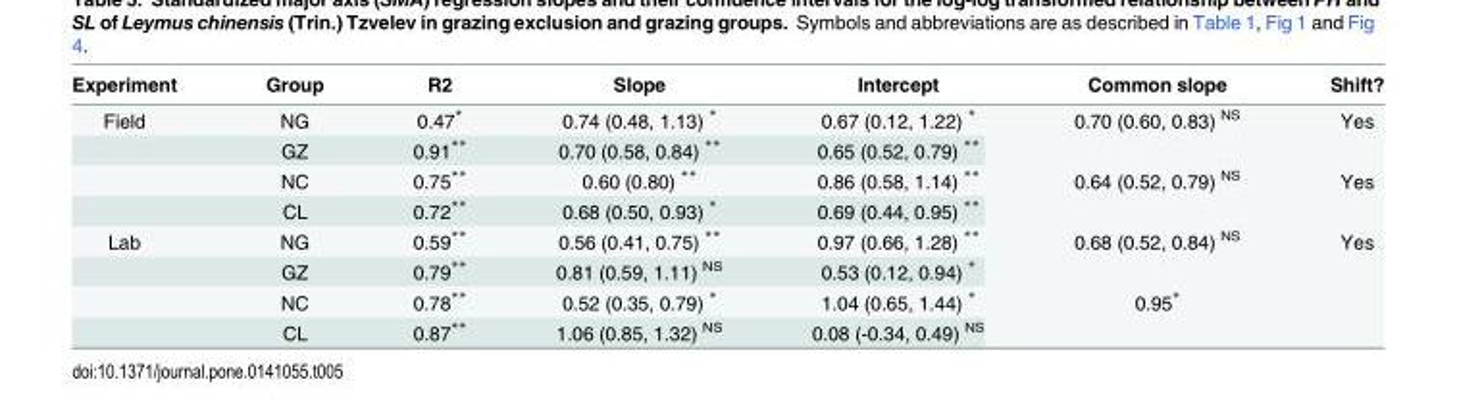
<table><thead><tr><td>Experiment</td><td>Group</td><td>R2</td><td>Slope</td><td>Intercept</td><td>Common slope</td><td>Shift?</td></tr></thead><tbody><tr><td rowspan="4">Field</td><td>NG</td><td>0.47*</td><td>0.74 (0.48, 1.13) *</td><td>0.67 (0.12, 1.22) *</td><td rowspan="2">0.70 (0.60, 0.83) <sup>NS</sup></td><td rowspan="2">Yes</td></tr><tr><td>GZ</td><td>0.91**</td><td>0.70 (0.58, 0.84) **</td><td>0.65 (0.52, 0.79) **</td></tr><tr><td>NC</td><td>0.75**</td><td>0.60 (0.80) **</td><td>0.86 (0.58, 1.14) **</td><td rowspan="2">0.64 (0.52, 0.79) <sup>NS</sup></td><td rowspan="2">Yes</td></tr><tr><td>CL</td><td>0.72**</td><td>0.68 (0.50, 0.93) *</td><td>0.69 (0.44, 0.95) **</td></tr><tr><td rowspan="4">Lab</td><td>NG</td><td>0.59**</td><td>0.56 (0.41, 0.75) **</td><td>0.97 (0.66, 1.28) **</td><td rowspan="2">0.68 (0.52, 0.84) <sup>NS</sup></td><td rowspan="2">Yes</td></tr><tr><td>GZ</td><td>0.79**</td><td>0.81 (0.59, 1.11) <sup>NS</sup></td><td>0.53 (0.12, 0.94) *</td></tr><tr><td>NC</td><td>0.78**</td><td>0.52 (0.35, 0.79) *</td><td>1.04 (0.65, 1.44) *</td><td rowspan="2">0.95*</td><td rowspan="2"></td></tr><tr><td>CL</td><td>0.87**</td><td>1.06 (0.85, 1.32) <sup>NS</sup></td><td>0.08 (-0.34, 0.49) <sup>NS</sup></td></tr></tbody></table>